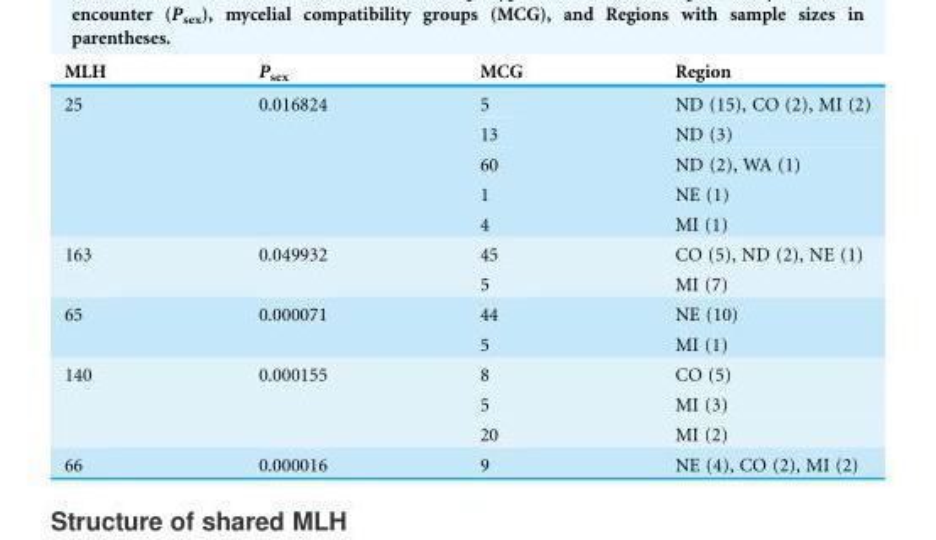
<table><thead><tr><td>MLH</td><td>P<sub>sex</sub></td><td>MCG</td><td>Region</td></tr></thead><tbody><tr><td rowspan="5">25</td><td rowspan="5">0.016824</td><td>5</td><td>ND (15), CO (2), MI (2)</td></tr><tr><td>13</td><td>ND (3)</td></tr><tr><td>60</td><td>ND (2), WA (1)</td></tr><tr><td>1</td><td>NE (1)</td></tr><tr><td>4</td><td>MI (1)</td></tr><tr><td rowspan="2">163</td><td rowspan="2">0.049932</td><td>45</td><td>CO (5), ND (2), NE (1)</td></tr><tr><td>5</td><td>MI (7)</td></tr><tr><td rowspan="2">65</td><td rowspan="2">0.000071</td><td>44</td><td>NE (10)</td></tr><tr><td>5</td><td>MI (1)</td></tr><tr><td rowspan="3">140</td><td rowspan="3">0.000155</td><td>8</td><td>CO (5)</td></tr><tr><td>5</td><td>MI (3)</td></tr><tr><td>20</td><td>MI (2)</td></tr><tr><td>66</td><td>0.000016</td><td>9</td><td>NE (4), CO (2), MI (2)</td></tr></tbody></table>